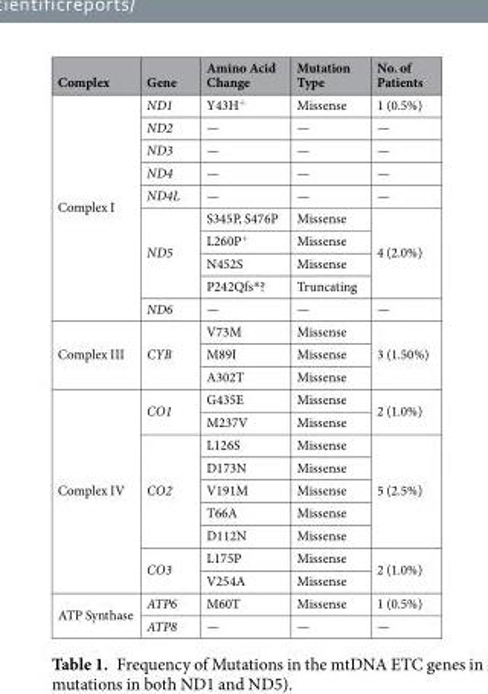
<table><thead><tr><td>Complex</td><td>Gene</td><td>Amino Acid Change</td><td>Mutation Type</td><td>No. of Patients</td></tr></thead><tbody><tr><td rowspan="10">Complex I</td><td>ND1</td><td>Y43H<sup>+</sup></td><td>Missense</td><td>1 (0.5%)</td></tr><tr><td>ND2</td><td>—</td><td>—</td><td>—</td></tr><tr><td>ND3</td><td>—</td><td>—</td><td>—</td></tr><tr><td>ND4</td><td>—</td><td>—</td><td>—</td></tr><tr><td>ND4L</td><td>—</td><td>—</td><td>—</td></tr><tr><td rowspan="4">ND5</td><td>S345P, S476P</td><td>Missense</td><td rowspan="4">4 (2.0%)</td></tr><tr><td>L260P<sup>+</sup></td><td>Missense</td></tr><tr><td>N452S</td><td>Missense</td></tr><tr><td>P242Qfs*?</td><td>Truncating</td></tr><tr><td>ND6</td><td>—</td><td>—</td><td>—</td></tr><tr><td rowspan="3">Complex III</td><td rowspan="3">CYB</td><td>V73M</td><td>Missense</td><td rowspan="3">3 (1.50%)</td></tr><tr><td>M89I</td><td>Missense</td></tr><tr><td>A302T</td><td>Missense</td></tr><tr><td rowspan="9">Complex IV</td><td rowspan="2">CO1</td><td>G435E</td><td>Missense</td><td rowspan="2">2 (1.0%)</td></tr><tr><td>M237V</td><td>Missense</td></tr><tr><td rowspan="5">CO2</td><td>L126S</td><td>Missense</td><td rowspan="5">5 (2.5%)</td></tr><tr><td>D173N</td><td>Missense</td></tr><tr><td>V191M</td><td>Missense</td></tr><tr><td>T66A</td><td>Missense</td></tr><tr><td>D112N</td><td>Missense</td></tr><tr><td rowspan="2">CO3</td><td>L175P</td><td>Missense</td><td rowspan="2">2 (1.0%)</td></tr><tr><td>V254A</td><td>Missense</td></tr><tr><td rowspan="2">ATP Synthase</td><td>ATP6</td><td>M60T</td><td>Missense</td><td>1 (0.5%)</td></tr><tr><td>ATP8</td><td>—</td><td>—</td><td>—</td></tr></tbody></table>